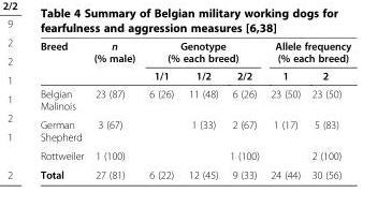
<table><thead><tr><td rowspan="2">Breed</td><td rowspan="2">n (% male)</td><td colspan="3">Genotype (% each breed)</td><td colspan="2">Allele frequency (% each breed)</td></tr><tr><td>1/1</td><td>1/2</td><td>2/2</td><td>1</td><td>2</td></tr></thead><tbody><tr><td>Belgian Malinois</td><td>23 (87)</td><td>6 (26)</td><td>11 (48)</td><td>6 (26)</td><td>23 (50)</td><td>23 (50)</td></tr><tr><td>German Shepherd</td><td>3 (67)</td><td></td><td>1 (33)</td><td>2 (67)</td><td>1 (17)</td><td>5 (83)</td></tr><tr><td>Rottweiler</td><td>1 (100)</td><td></td><td></td><td>1 (100)</td><td></td><td>2 (100)</td></tr><tr><td>Total</td><td>27 (81)</td><td>6 (22)</td><td>12 (45)</td><td>9 (33)</td><td>24 (44)</td><td>30 (56)</td></tr></tbody></table>